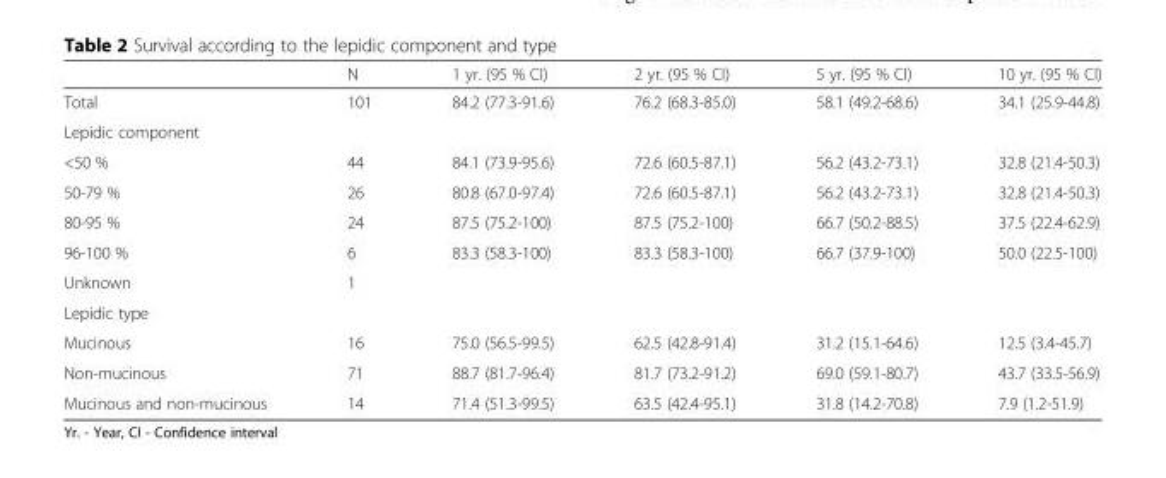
<table><thead><tr><td></td><td>N</td><td>1 yr. (95 % CI)</td><td>2 yr. (95 % CI)</td><td>5 yr. (95 % CI)</td><td>10 yr. (95 % CI)</td></tr></thead><tbody><tr><td>Total</td><td>101</td><td>84.2 (77.3-91.6)</td><td>76.2 (68.3-85.0)</td><td>58.1 (49.2-68.6)</td><td>34.1 (25.9-44.8)</td></tr><tr><td colspan="6">Lepidic component</td></tr><tr><td>&lt;50 %</td><td>44</td><td>84.1 (73.9-95.6)</td><td>72.6 (60.5-87.1)</td><td>56.2 (43.2-73.1)</td><td>32.8 (21.4-50.3)</td></tr><tr><td>50-79 %</td><td>26</td><td>80.8 (67.0-97.4)</td><td>72.6 (60.5-87.1)</td><td>56.2 (43.2-73.1)</td><td>32.8 (21.4-50.3)</td></tr><tr><td>80-95 %</td><td>24</td><td>87.5 (75.2-100)</td><td>87.5 (75.2-100)</td><td>66.7 (50.2-88.5)</td><td>37.5 (22.4-62.9)</td></tr><tr><td>96-100 %</td><td>6</td><td>83.3 (58.3-100)</td><td>83.3 (58.3-100)</td><td>66.7 (37.9-100)</td><td>50.0 (22.5-100)</td></tr><tr><td>Unknown</td><td>1</td><td></td><td></td><td></td><td></td></tr><tr><td colspan="6">Lepidic type</td></tr><tr><td>Mucinous</td><td>16</td><td>75.0 (56.5-99.5)</td><td>62.5 (42.8-91.4)</td><td>31.2 (15.1-64.6)</td><td>12.5 (3.4-45.7)</td></tr><tr><td>Non-mucinous</td><td>71</td><td>88.7 (81.7-96.4)</td><td>81.7 (73.2-91.2)</td><td>69.0 (59.1-80.7)</td><td>43.7 (33.5-56.9)</td></tr><tr><td>Mucinous and non-mucinous</td><td>14</td><td>71.4 (51.3-99.5)</td><td>63.5 (42.4-95.1)</td><td>31.8 (14.2-70.8)</td><td>7.9 (1.2-51.9)</td></tr></tbody></table>